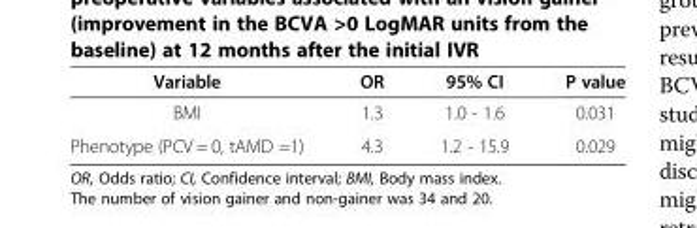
<table><thead><tr><td>Variable</td><td>OR</td><td>95% CI</td><td>P value</td></tr></thead><tbody><tr><td>BMI</td><td>1.3</td><td>1.0 - 1.6</td><td>0.031</td></tr><tr><td>Phenotype (PCV = 0, tAMD =1)</td><td>4.3</td><td>1.2 - 15.9</td><td>0.029</td></tr></tbody></table>